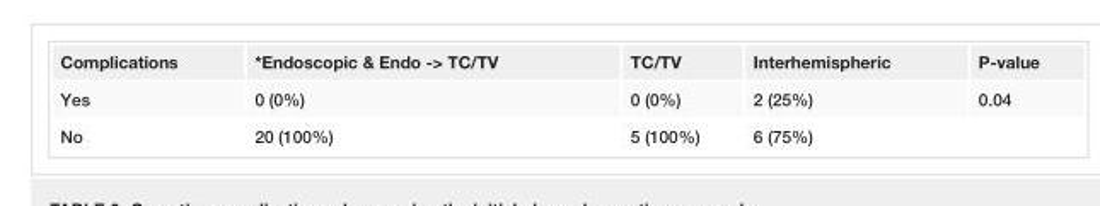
<table><tbody><tr><td>Complications</td><td>*Endoscopic &amp; Endo -&gt; TC/TV</td><td>TC/TV</td><td>Interhemispheric</td><td>P-value</td></tr><tr><td>Yes</td><td>0 (0%)</td><td>0 (0%)</td><td>2 (25%)</td><td>0.04</td></tr><tr><td>No</td><td>20 (100%)</td><td>5 (100%)</td><td>6 (75%)</td><td></td></tr></tbody></table>